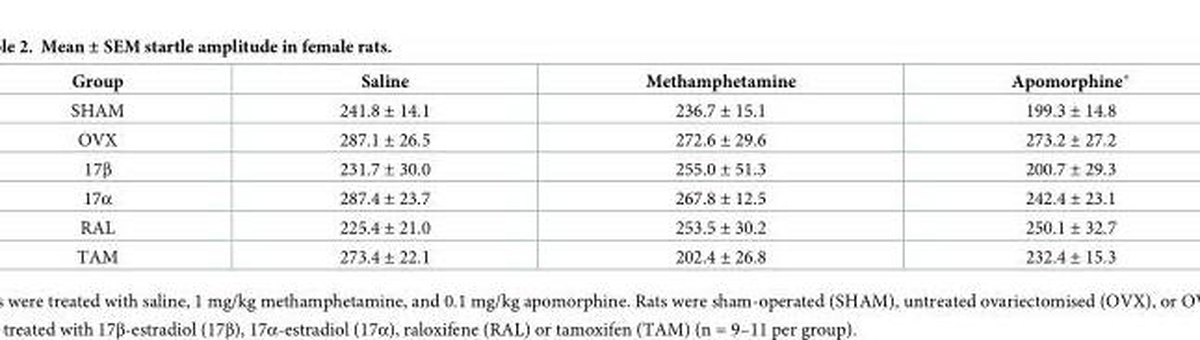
<table><thead><tr><td>Group</td><td>Saline</td><td>Methamphetamine</td><td>Apomorphine*</td></tr></thead><tbody><tr><td>SHAM</td><td>241.8 ± 14.1</td><td>236.7 ± 15.1</td><td>199.3 ± 14.8</td></tr><tr><td>OVX</td><td>287.1 ± 26.5</td><td>272.6 ± 29.6</td><td>273.2 ± 27.2</td></tr><tr><td>17β</td><td>231.7 ± 30.0</td><td>255.0 ± 51.3</td><td>200.7 ± 29.3</td></tr><tr><td>17α</td><td>287.4 ± 23.7</td><td>267.8 ± 12.5</td><td>242.4 ± 23.1</td></tr><tr><td>RAL</td><td>225.4 ± 21.0</td><td>253.5 ± 30.2</td><td>250.1 ± 32.7</td></tr><tr><td>TAM</td><td>273.4 ± 22.1</td><td>202.4 ± 26.8</td><td>232.4 ± 15.3</td></tr></tbody></table>